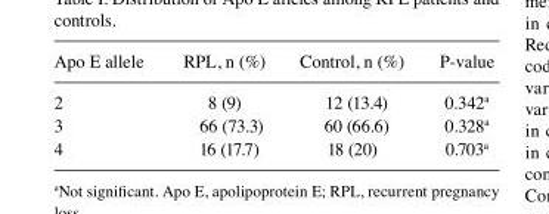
<table><thead><tr><td>Apo E allele</td><td>RPL, n (%)</td><td>Control, n (%)</td><td>P-value</td></tr></thead><tbody><tr><td>2</td><td>8 (9)</td><td>12 (13.4)</td><td>0.342<sup>a</sup></td></tr><tr><td>3</td><td>66 (73.3)</td><td>60 (66.6)</td><td>0.328<sup>a</sup></td></tr><tr><td>4</td><td>16 (17.7)</td><td>18 (20)</td><td>0.703<sup>a</sup></td></tr></tbody></table>